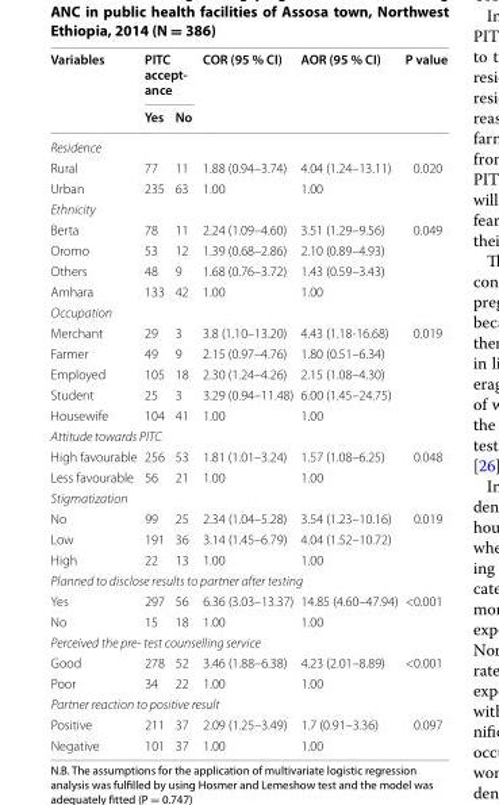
<table><thead><tr><td rowspan="2">Variables</td><td colspan="2">PITC accept- ance</td><td rowspan="2">COR (95 % CI)</td><td rowspan="2">AOR (95 % CI)</td><td rowspan="2">P value</td></tr><tr><td>Yes</td><td>No</td></tr></thead><tbody><tr><td colspan="6">Residence</td></tr><tr><td>Rural</td><td>77</td><td>11</td><td>1.88 (0.94–3.74)</td><td>4.04 (1.24–13.11)</td><td>0.020</td></tr><tr><td>Urban</td><td>235</td><td>63</td><td>1.00</td><td>1.00</td><td></td></tr><tr><td colspan="6">Ethnicity</td></tr><tr><td>Berta</td><td>78</td><td>11</td><td>2.24 (1.09–4.60)</td><td>3.51 (1.29–9.56)</td><td>0.049</td></tr><tr><td>Oromo</td><td>53</td><td>12</td><td>1.39 (0.68–2.86)</td><td>2.10 (0.89–4.93)</td><td></td></tr><tr><td>Others</td><td>48</td><td>9</td><td>1.68 (0.76–3.72)</td><td>1.43 (0.59–3.43)</td><td></td></tr><tr><td>Amhara</td><td>133</td><td>42</td><td>1.00</td><td>1.00</td><td></td></tr><tr><td colspan="6">Occupation</td></tr><tr><td>Merchant</td><td>29</td><td>3</td><td>3.8 (1.10–13.20)</td><td>4.43 (1.18-16.68)</td><td>0.019</td></tr><tr><td>Farmer</td><td>49</td><td>9</td><td>2.15 (0.97–4.76)</td><td>1.80 (0.51–6.34)</td><td></td></tr><tr><td>Employed</td><td>105</td><td>18</td><td>2.30 (1.24–4.26)</td><td>2.15 (1.08–4.30)</td><td></td></tr><tr><td>Student</td><td>25</td><td>3</td><td>3.29 (0.94–11.48)</td><td>6.00 (1.45–24.75)</td><td></td></tr><tr><td>Housewife</td><td>104</td><td>41</td><td>1.00</td><td>1.00</td><td></td></tr><tr><td colspan="6">Attitude towards PITC</td></tr><tr><td>High favourable</td><td>256</td><td>53</td><td>1.81 (1.01–3.24)</td><td>1.57 (1.08–6.25)</td><td>0.048</td></tr><tr><td>Less favourable</td><td>56</td><td>21</td><td>1.00</td><td>1.00</td><td></td></tr><tr><td colspan="6">Stigmatization</td></tr><tr><td>No</td><td>99</td><td>25</td><td>2.34 (1.04–5.28)</td><td>3.54 (1.23–10.16)</td><td>0.019</td></tr><tr><td>Low</td><td>191</td><td>36</td><td>3.14 (1.45–6.79)</td><td>4.04 (1.52–10.72)</td><td></td></tr><tr><td>High</td><td>22</td><td>13</td><td>1.00</td><td>1.00</td><td></td></tr><tr><td colspan="6">Planned to disclose results to partner after testing</td></tr><tr><td>Yes</td><td>297</td><td>56</td><td>6.36 (3.03–13.37)</td><td>14.85 (4.60–47.94)</td><td>&lt;0.001</td></tr><tr><td>No</td><td>15</td><td>18</td><td>1.00</td><td>1.00</td><td></td></tr><tr><td colspan="6">Perceived the pre- test counselling service</td></tr><tr><td>Good</td><td>278</td><td>52</td><td>3.46 (1.88–6.38)</td><td>4.23 (2.01–8.89)</td><td>&lt;0.001</td></tr><tr><td>Poor</td><td>34</td><td>22</td><td>1.00</td><td>1.00</td><td></td></tr><tr><td colspan="6">Partner reaction to positive result</td></tr><tr><td>Positive</td><td>211</td><td>37</td><td>2.09 (1.25–3.49)</td><td>1.7 (0.91–3.36)</td><td>0.097</td></tr><tr><td>Negative</td><td>101</td><td>37</td><td>1.00</td><td>1.00</td><td></td></tr></tbody></table>